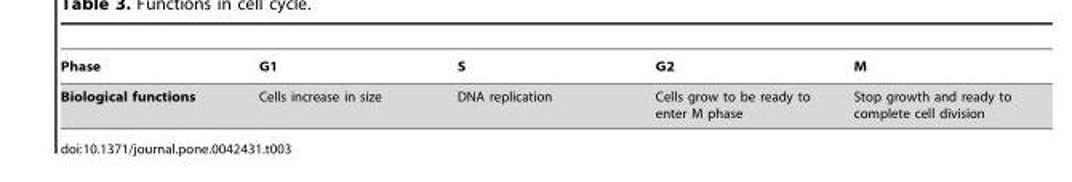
<table><thead><tr><td>Phase</td><td>G1</td><td>S</td><td>G2</td><td>M</td></tr></thead><tbody><tr><td>Biological functions</td><td>Cells increase in size</td><td>DNA replication</td><td>Cells grow to be ready to enter M phase</td><td>Stop growth and ready to complete cell division</td></tr></tbody></table>